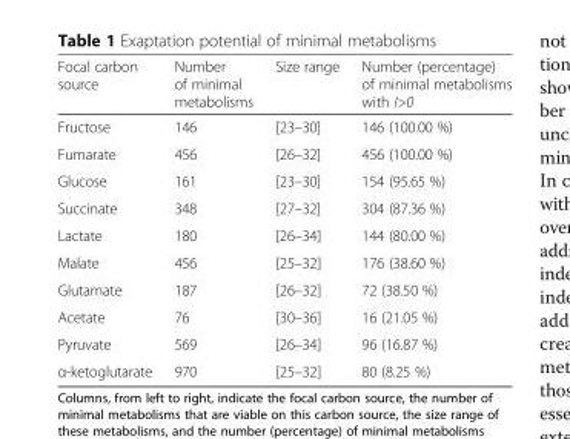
<table><thead><tr><td>Focal carbon source</td><td>Number of minimal metabolisms</td><td>Size range</td><td>Number (percentage) of minimal metabolisms with I&gt;0</td></tr></thead><tbody><tr><td>Fructose</td><td>146</td><td>[23–30]</td><td>146 (100.00 %)</td></tr><tr><td>Fumarate</td><td>456</td><td>[26–32]</td><td>456 (100.00 %)</td></tr><tr><td>Glucose</td><td>161</td><td>[23–30]</td><td>154 (95.65 %)</td></tr><tr><td>Succinate</td><td>348</td><td>[27–32]</td><td>304 (87.36 %)</td></tr><tr><td>Lactate</td><td>180</td><td>[26–34]</td><td>144 (80.00 %)</td></tr><tr><td>Malate</td><td>456</td><td>[25–32]</td><td>176 (38.60 %)</td></tr><tr><td>Glutamate</td><td>187</td><td>[26–32]</td><td>72 (38.50 %)</td></tr><tr><td>Acetate</td><td>76</td><td>[30–36]</td><td>16 (21.05 %)</td></tr><tr><td>Pyruvate</td><td>569</td><td>[26–34]</td><td>96 (16.87 %)</td></tr><tr><td>α-ketoglutarate</td><td>970</td><td>[25–32]</td><td>80 (8.25 %)</td></tr></tbody></table>